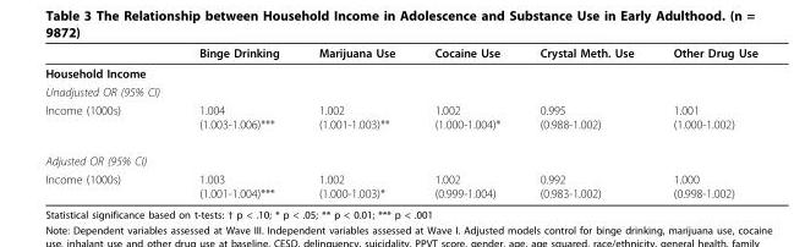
<table><thead><tr><td></td><td>Binge Drinking</td><td>Marijuana Use</td><td>Cocaine Use</td><td>Crystal Meth. Use</td><td>Other Drug Use</td></tr></thead><tbody><tr><td colspan="6">Household Income</td></tr><tr><td colspan="6">Unadjusted OR (95% CI)</td></tr><tr><td>Income (1000s)</td><td>1.004 (1.003-1.006)***</td><td>1.002 (1.001-1.003)**</td><td>1.002 (1.000-1.004)*</td><td>0.995 (0.988-1.002)</td><td>1.001 (1.000-1.002)</td></tr><tr><td colspan="6">Adjusted OR (95% CI)</td></tr><tr><td>Income (1000s)</td><td>1.003 (1.001-1.004)***</td><td>1.002 (1.000-1.003)*</td><td>1.002 (0.999-1.004)</td><td>0.992 (0.983-1.002)</td><td>1.000 (0.998-1.002)</td></tr></tbody></table>